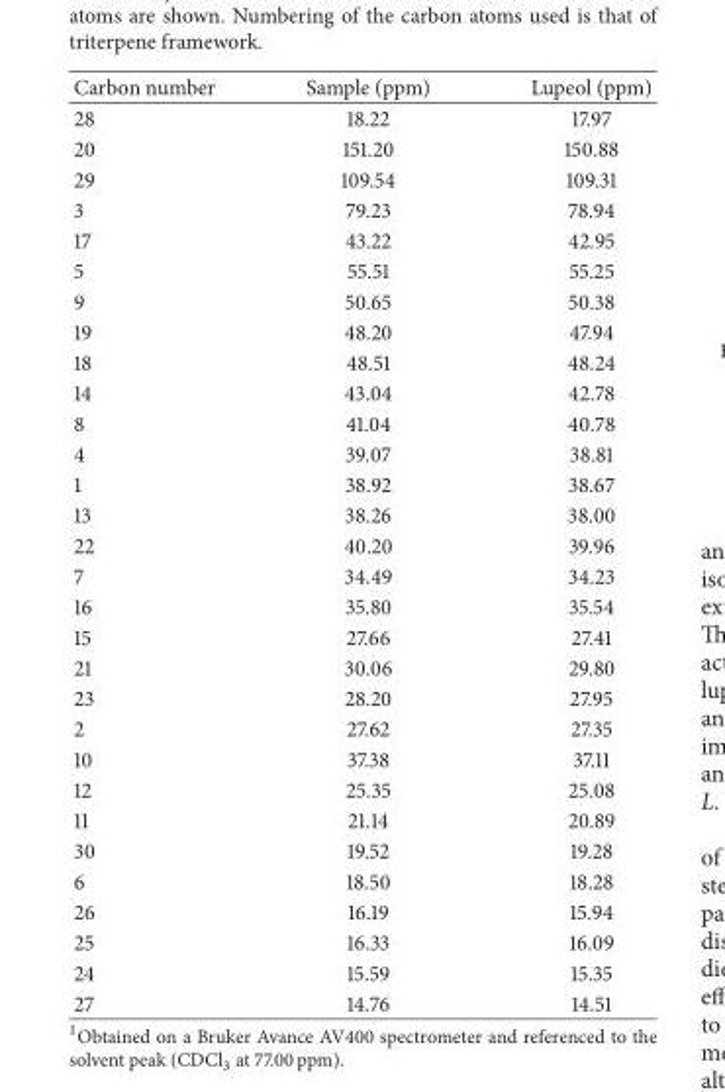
<table><thead><tr><td>Carbon number</td><td>Sample (ppm)</td><td>Lupeol (ppm)</td></tr></thead><tbody><tr><td>28</td><td>18.22</td><td>17.97</td></tr><tr><td>20</td><td>151.20</td><td>150.88</td></tr><tr><td>29</td><td>109.54</td><td>109.31</td></tr><tr><td>3</td><td>79.23</td><td>78.94</td></tr><tr><td>17</td><td>43.22</td><td>42.95</td></tr><tr><td>5</td><td>55.51</td><td>55.25</td></tr><tr><td>9</td><td>50.65</td><td>50.38</td></tr><tr><td>19</td><td>48.20</td><td>47.94</td></tr><tr><td>18</td><td>48.51</td><td>48.24</td></tr><tr><td>14</td><td>43.04</td><td>42.78</td></tr><tr><td>8</td><td>41.04</td><td>40.78</td></tr><tr><td>4</td><td>39.07</td><td>38.81</td></tr><tr><td>1</td><td>38.92</td><td>38.67</td></tr><tr><td>13</td><td>38.26</td><td>38.00</td></tr><tr><td>22</td><td>40.20</td><td>39.96</td></tr><tr><td>7</td><td>34.49</td><td>34.23</td></tr><tr><td>16</td><td>35.80</td><td>35.54</td></tr><tr><td>15</td><td>27.66</td><td>27.41</td></tr><tr><td>21</td><td>30.06</td><td>29.80</td></tr><tr><td>23</td><td>28.20</td><td>27.95</td></tr><tr><td>2</td><td>27.62</td><td>27.35</td></tr><tr><td>10</td><td>37.38</td><td>37.11</td></tr><tr><td>12</td><td>25.35</td><td>25.08</td></tr><tr><td>11</td><td>21.14</td><td>20.89</td></tr><tr><td>30</td><td>19.52</td><td>19.28</td></tr><tr><td>6</td><td>18.50</td><td>18.28</td></tr><tr><td>26</td><td>16.19</td><td>15.94</td></tr><tr><td>25</td><td>16.33</td><td>16.09</td></tr><tr><td>24</td><td>15.59</td><td>15.35</td></tr><tr><td>27</td><td>14.76</td><td>14.51</td></tr></tbody></table>